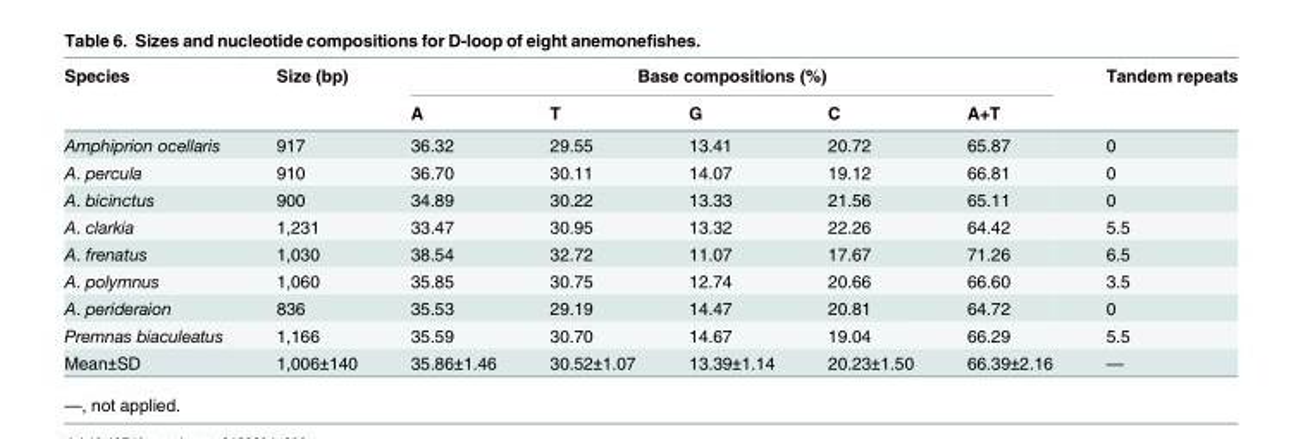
<table><thead><tr><td rowspan="2">Species</td><td rowspan="2">Size (bp)</td><td colspan="5">Base compositions (%)</td><td rowspan="2">Tandem repeats</td></tr><tr><td>A</td><td>T</td><td>G</td><td>C</td><td>A+T</td></tr></thead><tbody><tr><td>Amphiprion ocellaris</td><td>917</td><td>36.32</td><td>29.55</td><td>13.41</td><td>20.72</td><td>65.87</td><td>0</td></tr><tr><td>A. percula</td><td>910</td><td>36.70</td><td>30.11</td><td>14.07</td><td>19.12</td><td>66.81</td><td>0</td></tr><tr><td>A. bicinctus</td><td>900</td><td>34.89</td><td>30.22</td><td>13.33</td><td>21.56</td><td>65.11</td><td>0</td></tr><tr><td>A. clarkia</td><td>1,231</td><td>33.47</td><td>30.95</td><td>13.32</td><td>22.26</td><td>64.42</td><td>5.5</td></tr><tr><td>A. frenatus</td><td>1,030</td><td>38.54</td><td>32.72</td><td>11.07</td><td>17.67</td><td>71.26</td><td>6.5</td></tr><tr><td>A. polymnus</td><td>1,060</td><td>35.85</td><td>30.75</td><td>12.74</td><td>20.66</td><td>66.60</td><td>3.5</td></tr><tr><td>A. perideraion</td><td>836</td><td>35.53</td><td>29.19</td><td>14.47</td><td>20.81</td><td>64.72</td><td>0</td></tr><tr><td>Premnas biaculeatus</td><td>1,166</td><td>35.59</td><td>30.70</td><td>14.67</td><td>19.04</td><td>66.29</td><td>5.5</td></tr><tr><td>Mean±SD</td><td>1,006±140</td><td>35.86±1.46</td><td>30.52±1.07</td><td>13.39±1.14</td><td>20.23±1.50</td><td>66.39±2.16</td><td>—</td></tr></tbody></table>